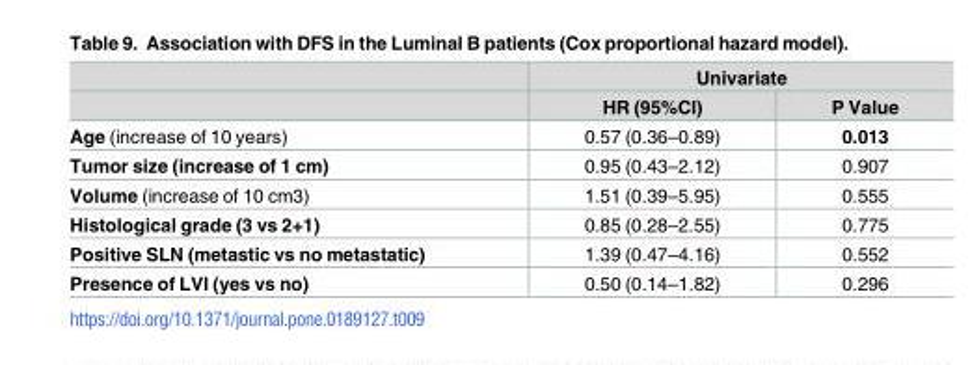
<table><thead><tr><td rowspan="2"></td><td colspan="2">Univariate</td></tr><tr><td>HR (95%CI)</td><td>P Value</td></tr></thead><tbody><tr><td>Age (increase of 10 years)</td><td>0.57 (0.36–0.89)</td><td>0.013</td></tr><tr><td>Tumor size (increase of 1 cm)</td><td>0.95 (0.43–2.12)</td><td>0.907</td></tr><tr><td>Volume (increase of 10 cm3)</td><td>1.51 (0.39–5.95)</td><td>0.555</td></tr><tr><td>Histological grade (3 vs 2+1)</td><td>0.85 (0.28–2.55)</td><td>0.775</td></tr><tr><td>Positive SLN (metastic vs no metastatic)</td><td>1.39 (0.47–4.16)</td><td>0.552</td></tr><tr><td>Presence of LVI (yes vs no)</td><td>0.50 (0.14–1.82)</td><td>0.296</td></tr></tbody></table>